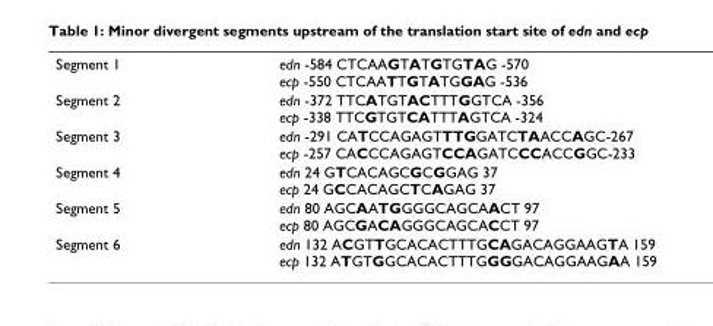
<table><tbody><tr><td>Segment 1</td><td>edn -584 CTCAAGTATGTGTAG -570 ecp -550 CTCAATTGTATGGAG -536</td></tr><tr><td>Segment 2</td><td>edn -372 TTCATGTACTTTGGTCA -356 ecp -338 TTCGTGTCATTTAGTCA -324</td></tr><tr><td>Segment 3</td><td>edn -291 CATCCAGAGTTTGGATCTAACCAGC-267 ecp -257 CACCCAGAGTCCAGATCCCACCGGC-233</td></tr><tr><td>Segment 4</td><td>edn 24 GTCACAGCGCGGAG 37 ecp 24 GCCACAGCTCAGAG 37</td></tr><tr><td>Segment 5</td><td>edn 80 AGCAATGGGGCAGCAACT 97 ecp 80 AGCGACAGGGCAGCACCT 97</td></tr><tr><td>Segment 6</td><td>edn 132 ACGTTGCACACTTTGCAGACAGGAAGTA 159 ecp 132 ATGTGGCACACTTTGGGGACAGGAAGAA 159</td></tr></tbody></table>